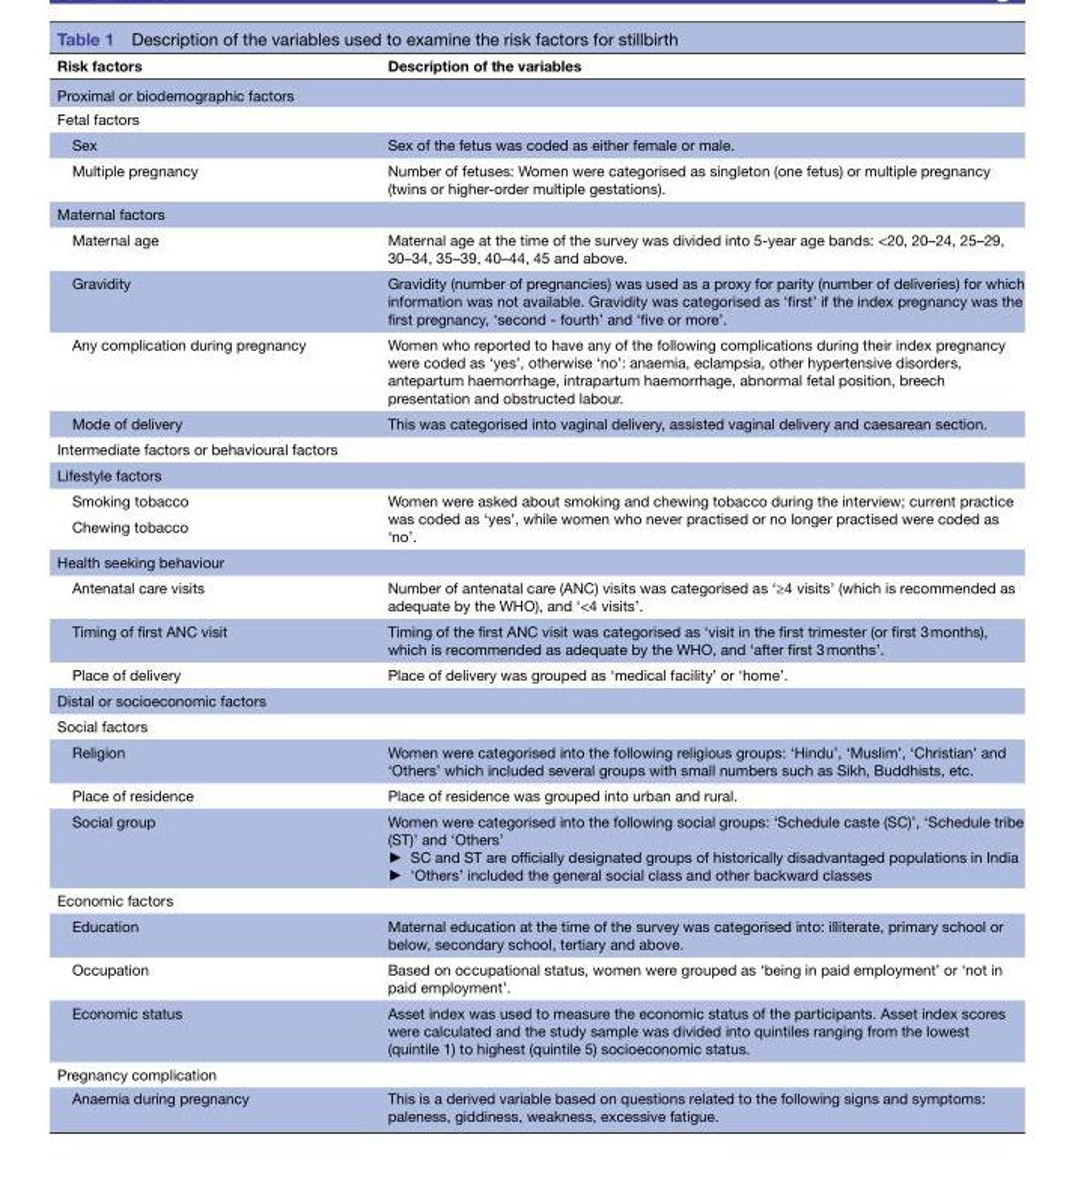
<table><thead><tr><td>Risk factors</td><td>Description of the variables</td></tr></thead><tbody><tr><td colspan="2">Proximal or biodemographic factors</td></tr><tr><td colspan="2">Fetal factors</td></tr><tr><td>Sex</td><td>Sex of the fetus was coded as either female or male.</td></tr><tr><td>Multiple pregnancy</td><td>Number of fetuses: Women were categorised as singleton (one fetus) or multiple pregnancy (twins or higher-order multiple gestations).</td></tr><tr><td colspan="2">Maternal factors</td></tr><tr><td>Maternal age</td><td>Maternal age at the time of the survey was divided into 5-year age bands: &lt;20, 20–24, 25–29, 30–34, 35–39, 40–44, 45 and above.</td></tr><tr><td>Gravidity</td><td>Gravidity (number of pregnancies) was used as a proxy for parity (number of deliveries) for which information was not available. Gravidity was categorised as ‘first’ if the index pregnancy was the first pregnancy, ‘second - fourth’ and ‘five or more’.</td></tr><tr><td>Any complication during pregnancy</td><td>Women who reported to have any of the following complications during their index pregnancy were coded as ‘yes’, otherwise ‘no’: anaemia, eclampsia, other hypertensive disorders, antepartum haemorrhage, intrapartum haemorrhage, abnormal fetal position, breech presentation and obstructed labour.</td></tr><tr><td>Mode of delivery</td><td>This was categorised into vaginal delivery, assisted vaginal delivery and caesarean section.</td></tr><tr><td colspan="2">Intermediate factors or behavioural factors</td></tr><tr><td colspan="2">Lifestyle factors</td></tr><tr><td>Smoking tobacco</td><td rowspan="2">Women were asked about smoking and chewing tobacco during the interview; current practice was coded as ‘yes’, while women who never practised or no longer practised were coded as ‘no’.</td></tr><tr><td>Chewing tobacco</td></tr><tr><td colspan="2">Health seeking behaviour</td></tr><tr><td>Antenatal care visits</td><td>Number of antenatal care (ANC) visits was categorised as ‘≥4 visits’ (which is recommended as adequate by the WHO), and ‘&lt;4 visits’.</td></tr><tr><td>Timing of first ANC visit</td><td>Timing of the first ANC visit was categorised as ‘visit in the first trimester (or first 3 months), which is recommended as adequate by the WHO, and ‘after first 3 months’.</td></tr><tr><td>Place of delivery</td><td>Place of delivery was grouped as ‘medical facility’ or ‘home’.</td></tr><tr><td colspan="2">Distal or socioeconomic factors</td></tr><tr><td colspan="2">Social factors</td></tr><tr><td>Religion</td><td>Women were categorised into the following religious groups: ‘Hindu’, ‘Muslim’, ‘Christian’ and ‘Others’ which included several groups with small numbers such as Sikh, Buddhists, etc.</td></tr><tr><td>Place of residence</td><td>Place of residence was grouped into urban and rural.</td></tr><tr><td>Social group</td><td>Women were categorised into the following social groups: ‘Schedule caste (SC)’, ‘Schedule tribe (ST)’ and ‘Others’ ► SC and ST are officially designated groups of historically disadvantaged populations in India ► ‘Others’ included the general social class and other backward classes</td></tr><tr><td colspan="2">Economic factors</td></tr><tr><td>Education</td><td>Maternal education at the time of the survey was categorised into: illiterate, primary school or below, secondary school, tertiary and above.</td></tr><tr><td>Occupation</td><td>Based on occupational status, women were grouped as ‘being in paid employment’ or ‘not in paid employment’.</td></tr><tr><td>Economic status</td><td>Asset index was used to measure the economic status of the participants. Asset index scores were calculated and the study sample was divided into quintiles ranging from the lowest (quintile 1) to highest (quintile 5) socioeconomic status.</td></tr><tr><td colspan="2">Pregnancy complication</td></tr><tr><td>Anaemia during pregnancy</td><td>This is a derived variable based on questions related to the following signs and symptoms: paleness, giddiness, weakness, excessive fatigue.</td></tr></tbody></table>